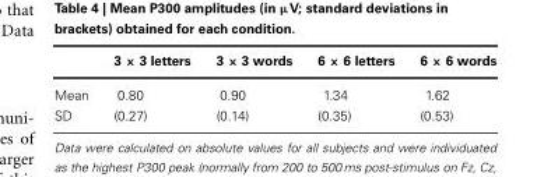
<table><thead><tr><td></td><td>3 × 3 letters</td><td>3 × 3 words</td><td>6 × 6 letters</td><td>6 × 6 words</td></tr></thead><tbody><tr><td>Mean</td><td>0.80</td><td>0.90</td><td>1.34</td><td>1.62</td></tr><tr><td>SD</td><td>(0.27)</td><td>(0.14)</td><td>(0.35)</td><td>(0.53)</td></tr></tbody></table>